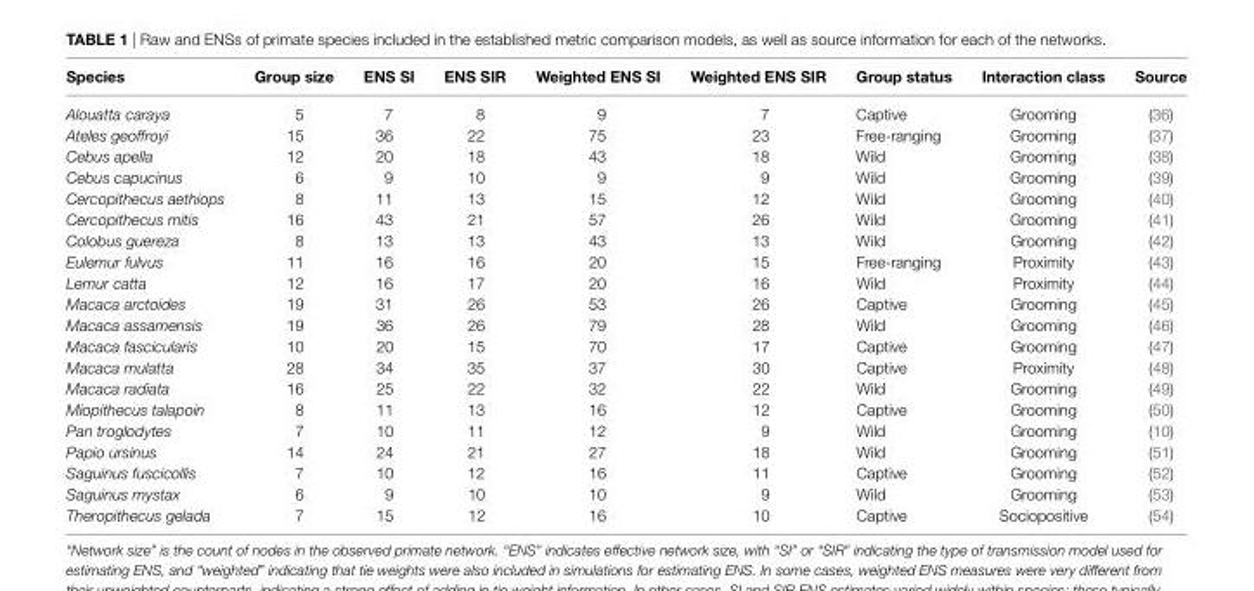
<table><thead><tr><td>species</td><td>Group size</td><td>eNs sI</td><td>eNs sIR</td><td>Weighted eNs sI</td><td>Weighted eNs sIR</td><td>Group status</td><td>Interaction class</td><td>source</td></tr></thead><tbody><tr><td>Alouatta caraya</td><td>5</td><td>7</td><td>8</td><td>9</td><td>7</td><td>Captive</td><td>Grooming</td><td>(36)</td></tr><tr><td>Ateles geoffroyi</td><td>15</td><td>36</td><td>22</td><td>75</td><td>23</td><td>Free-ranging</td><td>Grooming</td><td>(37)</td></tr><tr><td>Cebus apella</td><td>12</td><td>20</td><td>18</td><td>43</td><td>18</td><td>Wild</td><td>Grooming</td><td>(38)</td></tr><tr><td>Cebus capucinus</td><td>6</td><td>9</td><td>10</td><td>9</td><td>9</td><td>Wild</td><td>Grooming</td><td>(39)</td></tr><tr><td>Cercopithecus aethiops</td><td>8</td><td>11</td><td>13</td><td>15</td><td>12</td><td>Wild</td><td>Grooming</td><td>(40)</td></tr><tr><td>Cercopithecus mitis</td><td>16</td><td>43</td><td>21</td><td>57</td><td>26</td><td>Wild</td><td>Grooming</td><td>(41)</td></tr><tr><td>Colobus guereza</td><td>8</td><td>13</td><td>13</td><td>43</td><td>13</td><td>Wild</td><td>Grooming</td><td>(42)</td></tr><tr><td>Eulemur fulvus</td><td>11</td><td>16</td><td>16</td><td>20</td><td>15</td><td>Free-ranging</td><td>Proximity</td><td>(43)</td></tr><tr><td>Lemur catta</td><td>12</td><td>16</td><td>17</td><td>20</td><td>16</td><td>Wild</td><td>Proximity</td><td>(44)</td></tr><tr><td>Macaca arctoides</td><td>19</td><td>31</td><td>26</td><td>53</td><td>26</td><td>Captive</td><td>Grooming</td><td>(45)</td></tr><tr><td>Macaca assamensis</td><td>19</td><td>36</td><td>26</td><td>79</td><td>28</td><td>Wild</td><td>Grooming</td><td>(46)</td></tr><tr><td>Macaca fascicularis</td><td>10</td><td>20</td><td>15</td><td>70</td><td>17</td><td>Captive</td><td>Grooming</td><td>(47)</td></tr><tr><td>Macaca mulatta</td><td>28</td><td>34</td><td>35</td><td>37</td><td>30</td><td>Captive</td><td>Proximity</td><td>(48)</td></tr><tr><td>Macaca radiata</td><td>16</td><td>25</td><td>22</td><td>32</td><td>22</td><td>Wild</td><td>Grooming</td><td>(49)</td></tr><tr><td>Miopithecus talapoin</td><td>8</td><td>11</td><td>13</td><td>16</td><td>12</td><td>Captive</td><td>Grooming</td><td>(50)</td></tr><tr><td>Pan troglodytes</td><td>7</td><td>10</td><td>11</td><td>12</td><td>9</td><td>Wild</td><td>Grooming</td><td>(10)</td></tr><tr><td>Papio ursinus</td><td>14</td><td>24</td><td>21</td><td>27</td><td>18</td><td>Wild</td><td>Grooming</td><td>(51)</td></tr><tr><td>Saguinus fuscicollis</td><td>7</td><td>10</td><td>12</td><td>16</td><td>11</td><td>Captive</td><td>Grooming</td><td>(52)</td></tr><tr><td>Saguinus mystax</td><td>6</td><td>9</td><td>10</td><td>10</td><td>9</td><td>Wild</td><td>Grooming</td><td>(53)</td></tr><tr><td>Theropithecus gelada</td><td>7</td><td>15</td><td>12</td><td>16</td><td>10</td><td>Captive</td><td>Sociopositive</td><td>(54)</td></tr></tbody></table>